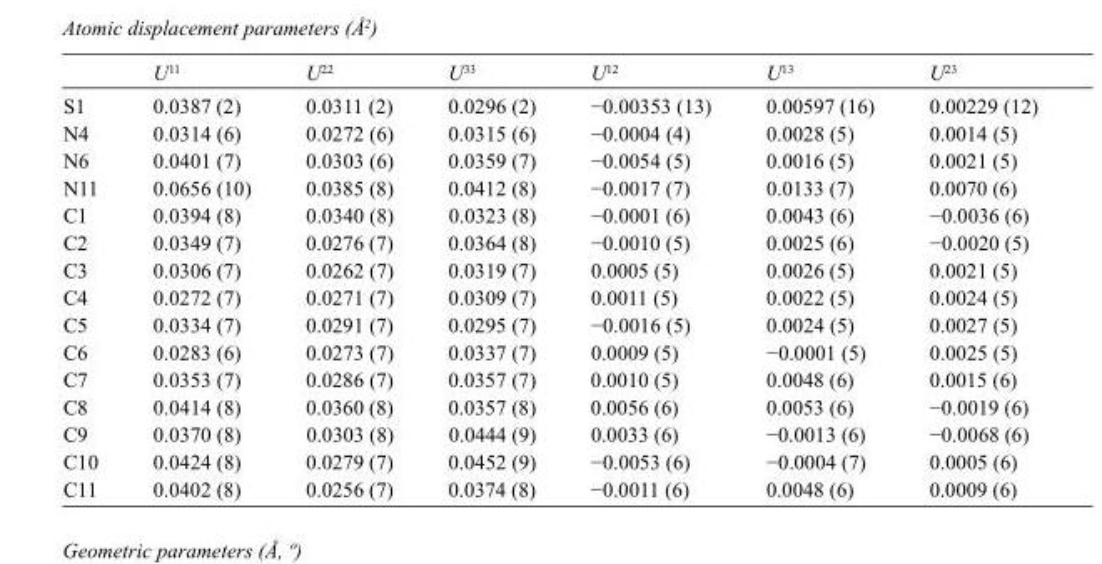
<table><thead><tr><td></td><td>U<sup>11</sup></td><td>U<sup>22</sup></td><td>U<sup>33</sup></td><td>U<sup>12</sup></td><td>U<sup>13</sup></td><td>U<sup>23</sup></td></tr></thead><tbody><tr><td>S1</td><td>0.0387 (2)</td><td>0.0311 (2)</td><td>0.0296 (2)</td><td>−0.00353 (13)</td><td>0.00597 (16)</td><td>0.00229 (12)</td></tr><tr><td>N4</td><td>0.0314 (6)</td><td>0.0272 (6)</td><td>0.0315 (6)</td><td>−0.0004 (4)</td><td>0.0028 (5)</td><td>0.0014 (5)</td></tr><tr><td>N6</td><td>0.0401 (7)</td><td>0.0303 (6)</td><td>0.0359 (7)</td><td>−0.0054 (5)</td><td>0.0016 (5)</td><td>0.0021 (5)</td></tr><tr><td>N11</td><td>0.0656 (10)</td><td>0.0385 (8)</td><td>0.0412 (8)</td><td>−0.0017 (7)</td><td>0.0133 (7)</td><td>0.0070 (6)</td></tr><tr><td>C1</td><td>0.0394 (8)</td><td>0.0340 (8)</td><td>0.0323 (8)</td><td>−0.0001 (6)</td><td>0.0043 (6)</td><td>−0.0036 (6)</td></tr><tr><td>C2</td><td>0.0349 (7)</td><td>0.0276 (7)</td><td>0.0364 (8)</td><td>−0.0010 (5)</td><td>0.0025 (6)</td><td>−0.0020 (5)</td></tr><tr><td>C3</td><td>0.0306 (7)</td><td>0.0262 (7)</td><td>0.0319 (7)</td><td>0.0005 (5)</td><td>0.0026 (5)</td><td>0.0021 (5)</td></tr><tr><td>C4</td><td>0.0272 (7)</td><td>0.0271 (7)</td><td>0.0309 (7)</td><td>0.0011 (5)</td><td>0.0022 (5)</td><td>0.0024 (5)</td></tr><tr><td>C5</td><td>0.0334 (7)</td><td>0.0291 (7)</td><td>0.0295 (7)</td><td>−0.0016 (5)</td><td>0.0024 (5)</td><td>0.0027 (5)</td></tr><tr><td>C6</td><td>0.0283 (6)</td><td>0.0273 (7)</td><td>0.0337 (7)</td><td>0.0009 (5)</td><td>−0.0001 (5)</td><td>0.0025 (5)</td></tr><tr><td>C7</td><td>0.0353 (7)</td><td>0.0286 (7)</td><td>0.0357 (7)</td><td>0.0010 (5)</td><td>0.0048 (6)</td><td>0.0015 (6)</td></tr><tr><td>C8</td><td>0.0414 (8)</td><td>0.0360 (8)</td><td>0.0357 (8)</td><td>0.0056 (6)</td><td>0.0053 (6)</td><td>−0.0019 (6)</td></tr><tr><td>C9</td><td>0.0370 (8)</td><td>0.0303 (8)</td><td>0.0444 (9)</td><td>0.0033 (6)</td><td>−0.0013 (6)</td><td>−0.0068 (6)</td></tr><tr><td>C10</td><td>0.0424 (8)</td><td>0.0279 (7)</td><td>0.0452 (9)</td><td>−0.0053 (6)</td><td>−0.0004 (7)</td><td>0.0005 (6)</td></tr><tr><td>C11</td><td>0.0402 (8)</td><td>0.0256 (7)</td><td>0.0374 (8)</td><td>−0.0011 (6)</td><td>0.0048 (6)</td><td>0.0009 (6)</td></tr></tbody></table>